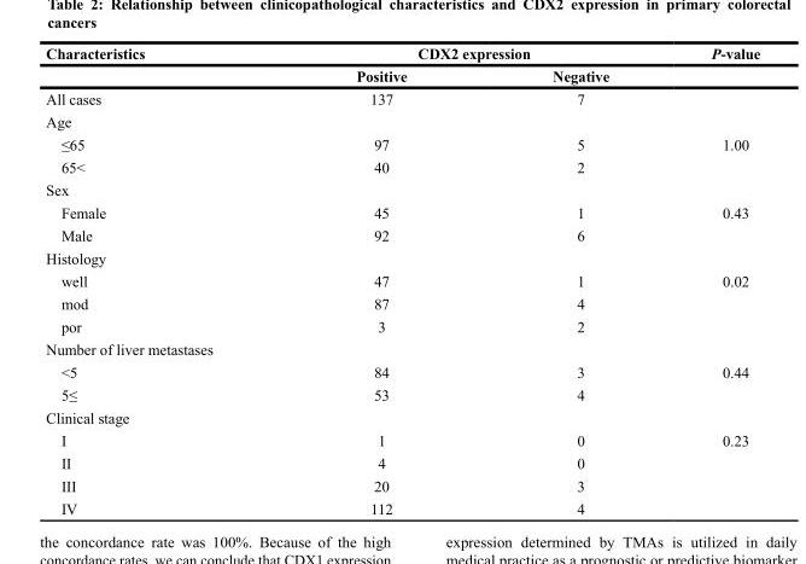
<table><thead><tr><td rowspan="2">Characteristics</td><td colspan="2">CDX2 expression</td><td rowspan="2">P-value</td></tr><tr><td>Positive</td><td>Negative</td></tr></thead><tbody><tr><td>All cases</td><td>137</td><td>7</td><td></td></tr><tr><td colspan="4">Age</td></tr><tr><td>≤65</td><td>97</td><td>5</td><td>1.00</td></tr><tr><td>65&lt;</td><td>40</td><td>2</td><td></td></tr><tr><td colspan="4">Sex</td></tr><tr><td>Female</td><td>45</td><td>1</td><td>0.43</td></tr><tr><td>Male</td><td>92</td><td>6</td><td></td></tr><tr><td colspan="4">Histology</td></tr><tr><td>well</td><td>47</td><td>1</td><td>0.02</td></tr><tr><td>mod</td><td>87</td><td>4</td><td></td></tr><tr><td>por</td><td>3</td><td>2</td><td></td></tr><tr><td colspan="4">Number of liver metastases</td></tr><tr><td>&lt;5</td><td>84</td><td>3</td><td>0.44</td></tr><tr><td>5≤</td><td>53</td><td>4</td><td></td></tr><tr><td colspan="4">Clinical stage</td></tr><tr><td>I</td><td>1</td><td>0</td><td>0.23</td></tr><tr><td>II</td><td>4</td><td>0</td><td></td></tr><tr><td>III</td><td>20</td><td>3</td><td></td></tr><tr><td>IV</td><td>112</td><td>4</td><td></td></tr></tbody></table>